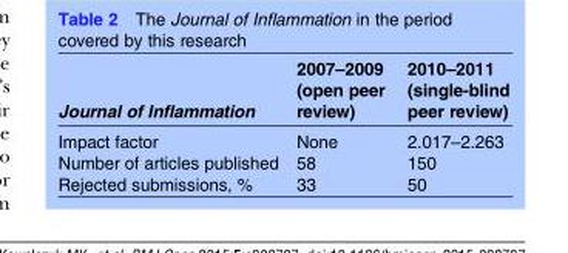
<table><thead><tr><td>Journal of Inflammation</td><td>2007–2009 (open peer review)</td><td>2010–2011 (single-blind peer review)</td></tr></thead><tbody><tr><td>Impact factor</td><td>None</td><td>2.017–2.263</td></tr><tr><td>Number of articles published</td><td>58</td><td>150</td></tr><tr><td>Rejected submissions, %</td><td>33</td><td>50</td></tr></tbody></table>